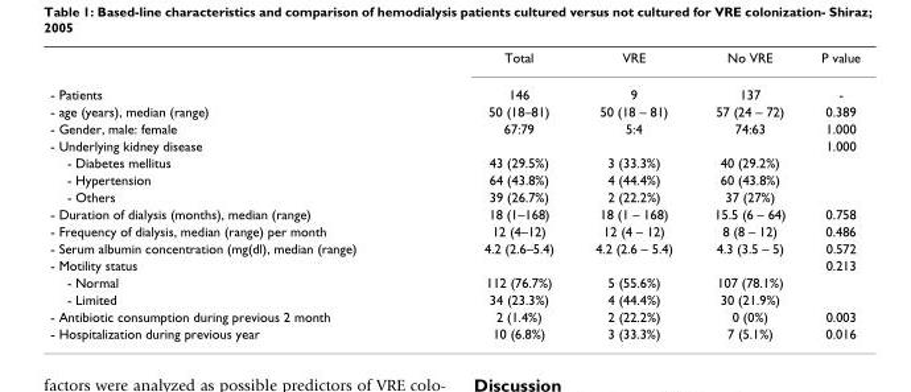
<table><thead><tr><td></td><td>Total</td><td>VRE</td><td>No VRE</td><td>P value</td></tr></thead><tbody><tr><td>- Patients</td><td>146</td><td>9</td><td>137</td><td>-</td></tr><tr><td>- age (years), median (range)</td><td>50 (18–81)</td><td>50 (18 – 81)</td><td>57 (24 – 72)</td><td>0.389</td></tr><tr><td>- Gender, male: female</td><td>67:79</td><td>5:4</td><td>74:63</td><td>1.000</td></tr><tr><td>- Underlying kidney disease</td><td></td><td></td><td></td><td>1.000</td></tr><tr><td>- Diabetes mellitus</td><td>43 (29.5%)</td><td>3 (33.3%)</td><td>40 (29.2%)</td><td></td></tr><tr><td>- Hypertension</td><td>64 (43.8%)</td><td>4 (44.4%)</td><td>60 (43.8%)</td><td></td></tr><tr><td>- Others</td><td>39 (26.7%)</td><td>2 (22.2%)</td><td>37 (27%)</td><td></td></tr><tr><td>- Duration of dialysis (months), median (range)</td><td>18 (1–168)</td><td>18 (1 – 168)</td><td>15.5 (6 – 64)</td><td>0.758</td></tr><tr><td>- Frequency of dialysis, median (range) per month</td><td>12 (4–12)</td><td>12 (4 – 12)</td><td>8 (8 – 12)</td><td>0.486</td></tr><tr><td>- Serum albumin concentration (mg(dl), median (range)</td><td>4.2 (2.6–5.4)</td><td>4.2 (2.6 – 5.4)</td><td>4.3 (3.5 – 5)</td><td>0.572</td></tr><tr><td>- Motility status</td><td></td><td></td><td></td><td>0.213</td></tr><tr><td>- Normal</td><td>112 (76.7%)</td><td>5 (55.6%)</td><td>107 (78.1%)</td><td></td></tr><tr><td>- Limited</td><td>34 (23.3%)</td><td>4 (44.4%)</td><td>30 (21.9%)</td><td></td></tr><tr><td>- Antibiotic consumption during previous 2 month</td><td>2 (1.4%)</td><td>2 (22.2%)</td><td>0 (0%)</td><td>0.003</td></tr><tr><td>- Hospitalization during previous year</td><td>10 (6.8%)</td><td>3 (33.3%)</td><td>7 (5.1%)</td><td>0.016</td></tr></tbody></table>